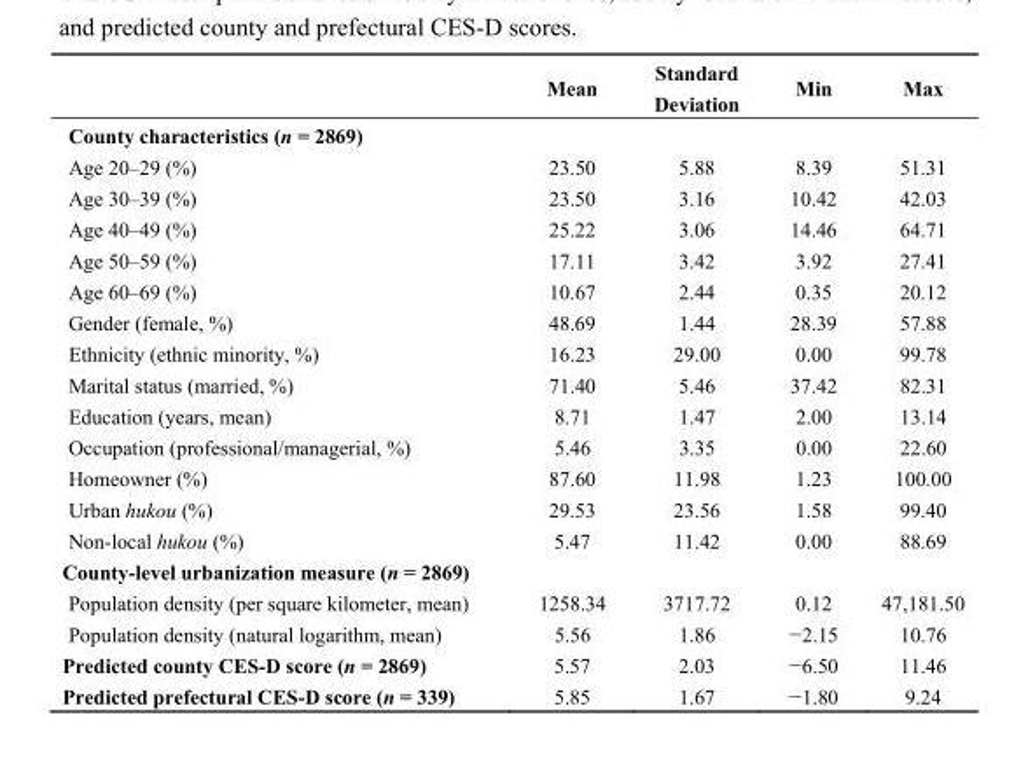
<table><thead><tr><td></td><td>Mean</td><td>Standard Deviation</td><td>Min</td><td>Max</td></tr></thead><tbody><tr><td colspan="5">County characteristics (n = 2869)</td></tr><tr><td>Age 20–29 (%)</td><td>23.50</td><td>5.88</td><td>8.39</td><td>51.31</td></tr><tr><td>Age 30–39 (%)</td><td>23.50</td><td>3.16</td><td>10.42</td><td>42.03</td></tr><tr><td>Age 40–49 (%)</td><td>25.22</td><td>3.06</td><td>14.46</td><td>64.71</td></tr><tr><td>Age 50–59 (%)</td><td>17.11</td><td>3.42</td><td>3.92</td><td>27.41</td></tr><tr><td>Age 60–69 (%)</td><td>10.67</td><td>2.44</td><td>0.35</td><td>20.12</td></tr><tr><td>Gender (female, %)</td><td>48.69</td><td>1.44</td><td>28.39</td><td>57.88</td></tr><tr><td>Ethnicity (ethnic minority, %)</td><td>16.23</td><td>29.00</td><td>0.00</td><td>99.78</td></tr><tr><td>Marital status (married, %)</td><td>71.40</td><td>5.46</td><td>37.42</td><td>82.31</td></tr><tr><td>Education (years, mean)</td><td>8.71</td><td>1.47</td><td>2.00</td><td>13.14</td></tr><tr><td>Occupation (professional/managerial, %)</td><td>5.46</td><td>3.35</td><td>0.00</td><td>22.60</td></tr><tr><td>Homeowner (%)</td><td>87.60</td><td>11.98</td><td>1.23</td><td>100.00</td></tr><tr><td>Urban hukou (%)</td><td>29.53</td><td>23.56</td><td>1.58</td><td>99.40</td></tr><tr><td>Non-local hukou (%)</td><td>5.47</td><td>11.42</td><td>0.00</td><td>88.69</td></tr><tr><td colspan="5">County-level urbanization measure (n = 2869)</td></tr><tr><td>Population density (per square kilometer, mean)</td><td>1258.34</td><td>3717.72</td><td>0.12</td><td>47,181.50</td></tr><tr><td>Population density (natural logarithm, mean)</td><td>5.56</td><td>1.86</td><td>−2.15</td><td>10.76</td></tr><tr><td>Predicted county CES-D score (n = 2869)</td><td>5.57</td><td>2.03</td><td>−6.50</td><td>11.46</td></tr><tr><td>Predicted prefectural CES-D score (n = 339)</td><td>5.85</td><td>1.67</td><td>−1.80</td><td>9.24</td></tr></tbody></table>